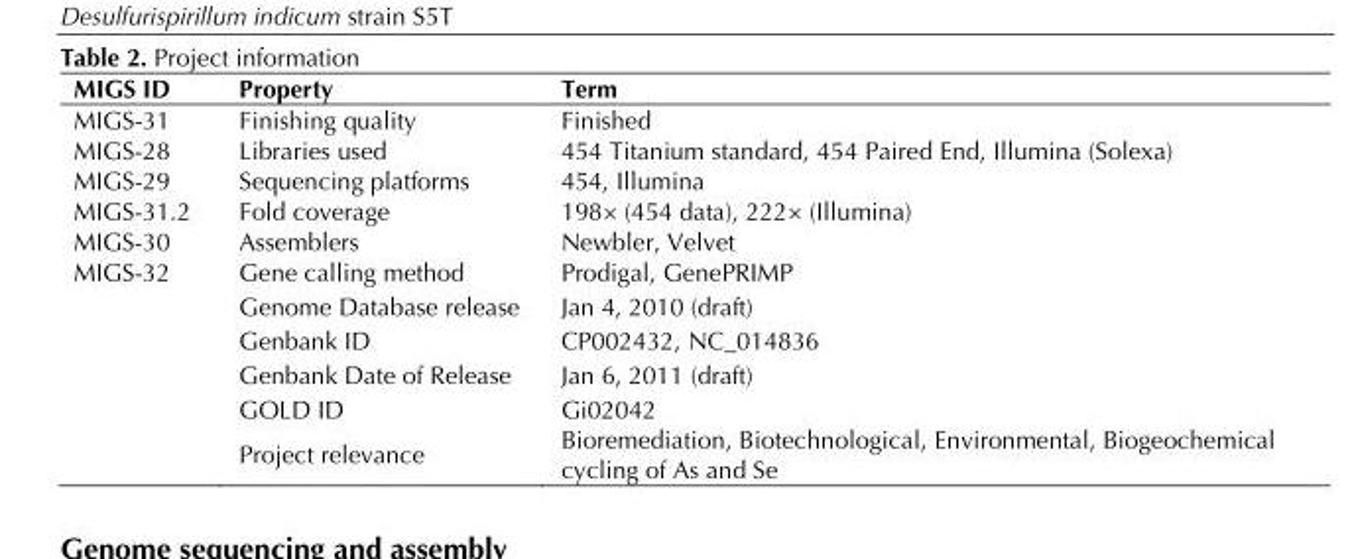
<table><thead><tr><td>MIGS ID</td><td>Property</td><td>Term</td></tr></thead><tbody><tr><td>MIGS-31</td><td>Finishing quality</td><td>Finished</td></tr><tr><td>MIGS-28</td><td>Libraries used</td><td>454 Titanium standard, 454 Paired End, Illumina (Solexa)</td></tr><tr><td>MIGS-29</td><td>Sequencing platforms</td><td>454, Illumina</td></tr><tr><td>MIGS-31.2</td><td>Fold coverage</td><td>198× (454 data), 222× (Illumina)</td></tr><tr><td>MIGS-30</td><td>Assemblers</td><td>Newbler, Velvet</td></tr><tr><td rowspan="6">MIGS-32</td><td>Gene calling method</td><td>Prodigal, GenePRIMP</td></tr><tr><td>Genome Database release</td><td>Jan 4, 2010 (draft)</td></tr><tr><td>Genbank ID</td><td>CP002432, NC_014836</td></tr><tr><td>Genbank Date of Release</td><td>Jan 6, 2011 (draft)</td></tr><tr><td>GOLD ID</td><td>Gi02042</td></tr><tr><td>Project relevance</td><td>Bioremediation, Biotechnological, Environmental, Biogeochemical cycling of As and Se</td></tr></tbody></table>